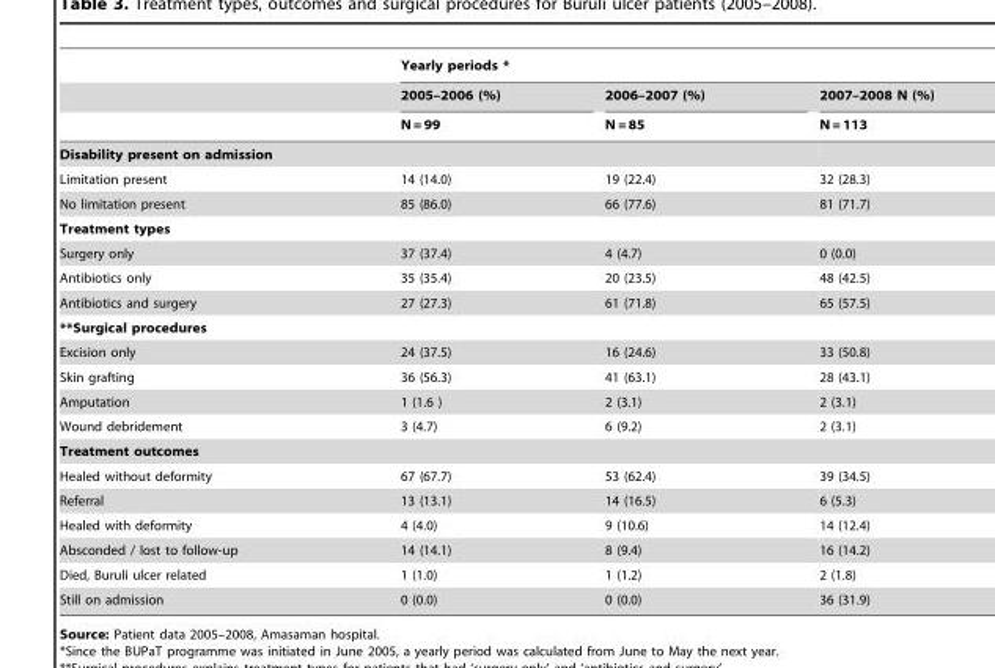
<table><thead><tr><td rowspan="3"></td><td colspan="3">Yearly periods *</td></tr><tr><td rowspan="2">2005–2006 (%) N = 99</td><td rowspan="2">2006–2007 (%) N = 85</td><td rowspan="2">2007–2008 N (%) N = 113</td></tr><tr></tr></thead><tbody><tr><td colspan="4">Disability present on admission</td></tr><tr><td>Limitation present</td><td>14 (14.0)</td><td>19 (22.4)</td><td>32 (28.3)</td></tr><tr><td>No limitation present</td><td>85 (86.0)</td><td>66 (77.6)</td><td>81 (71.7)</td></tr><tr><td colspan="4">Treatment types</td></tr><tr><td>Surgery only</td><td>37 (37.4)</td><td>4 (4.7)</td><td>0 (0.0)</td></tr><tr><td>Antibiotics only</td><td>35 (35.4)</td><td>20 (23.5)</td><td>48 (42.5)</td></tr><tr><td>Antibiotics and surgery</td><td>27 (27.3)</td><td>61 (71.8)</td><td>65 (57.5)</td></tr><tr><td colspan="4">**Surgical procedures</td></tr><tr><td>Excision only</td><td>24 (37.5)</td><td>16 (24.6)</td><td>33 (50.8)</td></tr><tr><td>Skin grafting</td><td>36 (56.3)</td><td>41 (63.1)</td><td>28 (43.1)</td></tr><tr><td>Amputation</td><td>1 (1.6 )</td><td>2 (3.1)</td><td>2 (3.1)</td></tr><tr><td>Wound debridement</td><td>3 (4.7)</td><td>6 (9.2)</td><td>2 (3.1)</td></tr><tr><td colspan="4">Treatment outcomes</td></tr><tr><td>Healed without deformity</td><td>67 (67.7)</td><td>53 (62.4)</td><td>39 (34.5)</td></tr><tr><td>Referral</td><td>13 (13.1)</td><td>14 (16.5)</td><td>6 (5.3)</td></tr><tr><td>Healed with deformity</td><td>4 (4.0)</td><td>9 (10.6)</td><td>14 (12.4)</td></tr><tr><td>Absconded / lost to follow-up</td><td>14 (14.1)</td><td>8 (9.4)</td><td>16 (14.2)</td></tr><tr><td>Died, Buruli ulcer related</td><td>1 (1.0)</td><td>1 (1.2)</td><td>2 (1.8)</td></tr><tr><td>Still on admission</td><td>0 (0.0)</td><td>0 (0.0)</td><td>36 (31.9)</td></tr></tbody></table>